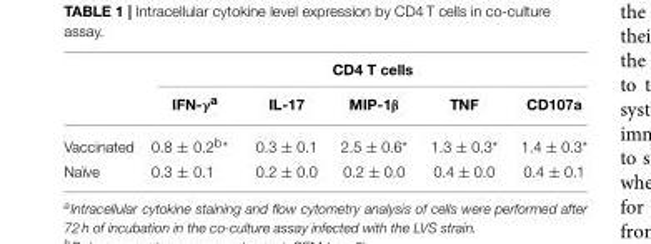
<table><thead><tr><td rowspan="2"></td><td colspan="5">CD4 T cells</td></tr><tr><td>IFN-γ<sup>a</sup></td><td>IL-17</td><td>MIP-1β</td><td>TNF</td><td>CD107a</td></tr></thead><tbody><tr><td>Vaccinated</td><td>0.8 ± 0.2<sup>b*</sup></td><td>0.3 ± 0.1</td><td>2.5 ± 0.6*</td><td>1.3 ± 0.3*</td><td>1.4 ± 0.3*</td></tr><tr><td>Naïve</td><td>0.3 ± 0.1</td><td>0.2 ± 0.0</td><td>0.2 ± 0.0</td><td>0.4 ± 0.0</td><td>0.4 ± 0.1</td></tr></tbody></table>